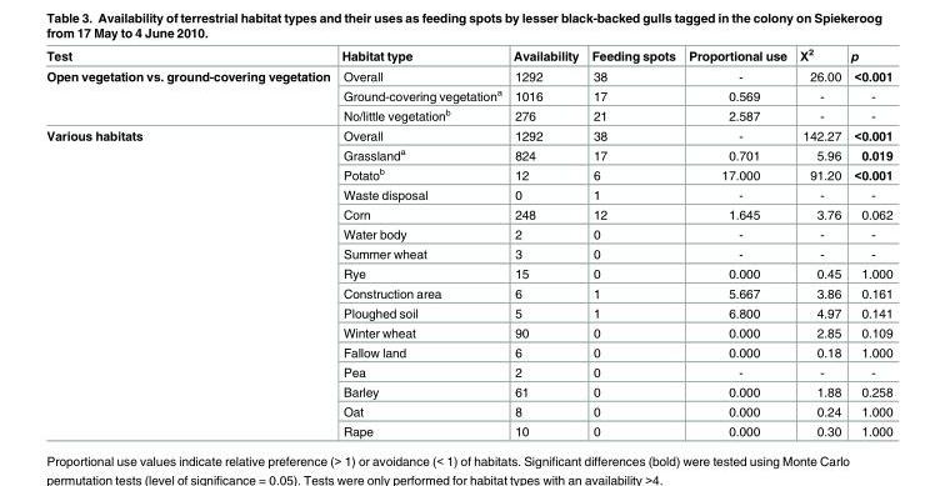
<table><thead><tr><td>Test</td><td>Habitat type</td><td>Availability</td><td>Feeding spots</td><td>Proportional use</td><td>Χ<sup>2</sup></td><td>p</td></tr></thead><tbody><tr><td rowspan="3">Open vegetation vs. ground-covering vegetation</td><td>Overall</td><td>1292</td><td>38</td><td>-</td><td>26.00</td><td>&lt;0.001</td></tr><tr><td>Ground-covering vegetation<sup>a</sup></td><td>1016</td><td>17</td><td>0.569</td><td>-</td><td>-</td></tr><tr><td>No/little vegetation<sup>b</sup></td><td>276</td><td>21</td><td>2.587</td><td>-</td><td>-</td></tr><tr><td rowspan="16">Various habitats</td><td>Overall</td><td>1292</td><td>38</td><td>-</td><td>142.27</td><td>&lt;0.001</td></tr><tr><td>Grassland<sup>a</sup></td><td>824</td><td>17</td><td>0.701</td><td>5.96</td><td>0.019</td></tr><tr><td>Potato<sup>b</sup></td><td>12</td><td>6</td><td>17.000</td><td>91.20</td><td>&lt;0.001</td></tr><tr><td>Waste disposal</td><td>0</td><td>1</td><td>-</td><td>-</td><td>-</td></tr><tr><td>Corn</td><td>248</td><td>12</td><td>1.645</td><td>3.76</td><td>0.062</td></tr><tr><td>Water body</td><td>2</td><td>0</td><td>-</td><td>-</td><td>-</td></tr><tr><td>Summer wheat</td><td>3</td><td>0</td><td>-</td><td>-</td><td>-</td></tr><tr><td>Rye</td><td>15</td><td>0</td><td>0.000</td><td>0.45</td><td>1.000</td></tr><tr><td>Construction area</td><td>6</td><td>1</td><td>5.667</td><td>3.86</td><td>0.161</td></tr><tr><td>Ploughed soil</td><td>5</td><td>1</td><td>6.800</td><td>4.97</td><td>0.141</td></tr><tr><td>Winter wheat</td><td>90</td><td>0</td><td>0.000</td><td>2.85</td><td>0.109</td></tr><tr><td>Fallow land</td><td>6</td><td>0</td><td>0.000</td><td>0.18</td><td>1.000</td></tr><tr><td>Pea</td><td>2</td><td>0</td><td>-</td><td>-</td><td>-</td></tr><tr><td>Barley</td><td>61</td><td>0</td><td>0.000</td><td>1.88</td><td>0.258</td></tr><tr><td>Oat</td><td>8</td><td>0</td><td>0.000</td><td>0.24</td><td>1.000</td></tr><tr><td>Rape</td><td>10</td><td>0</td><td>0.000</td><td>0.30</td><td>1.000</td></tr></tbody></table>